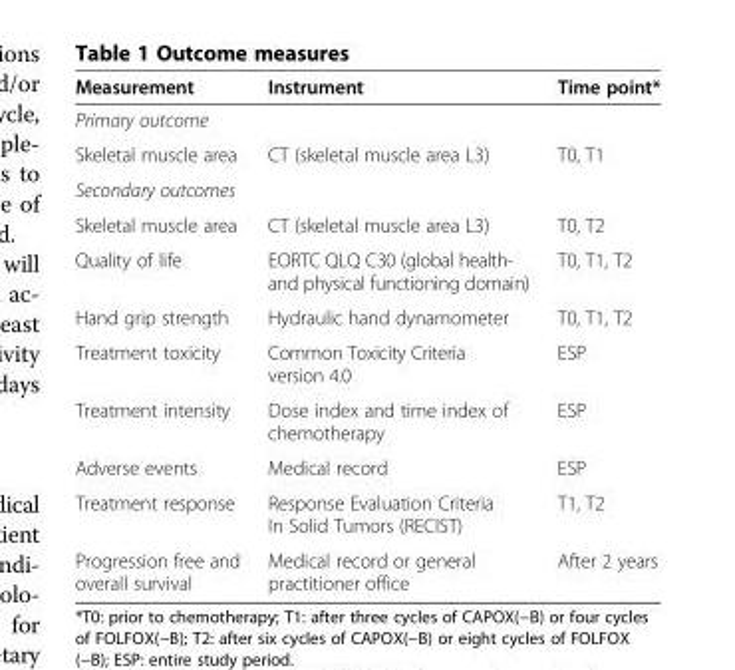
<table><thead><tr><td>Measurement</td><td>Instrument</td><td>Time point*</td></tr></thead><tbody><tr><td colspan="3">Primary outcome</td></tr><tr><td>Skeletal muscle area</td><td>CT (skeletal muscle area L3)</td><td>T0, T1</td></tr><tr><td colspan="3">Secondary outcomes</td></tr><tr><td>Skeletal muscle area</td><td>CT (skeletal muscle area L3)</td><td>T0, T2</td></tr><tr><td>Quality of life</td><td>EORTC QLQ C30 (global health- and physical functioning domain)</td><td>T0, T1, T2</td></tr><tr><td>Hand grip strength</td><td>Hydraulic hand dynamometer</td><td>T0, T1, T2</td></tr><tr><td>Treatment toxicity</td><td>Common Toxicity Criteria version 4.0</td><td>ESP</td></tr><tr><td>Treatment intensity</td><td>Dose index and time index of chemotherapy</td><td>ESP</td></tr><tr><td>Adverse events</td><td>Medical record</td><td>ESP</td></tr><tr><td>Treatment response</td><td>Response Evaluation Criteria In Solid Tumors (RECIST)</td><td>T1, T2</td></tr><tr><td>Progression free and overall survival</td><td>Medical record or general practitioner office</td><td>After 2 years</td></tr></tbody></table>